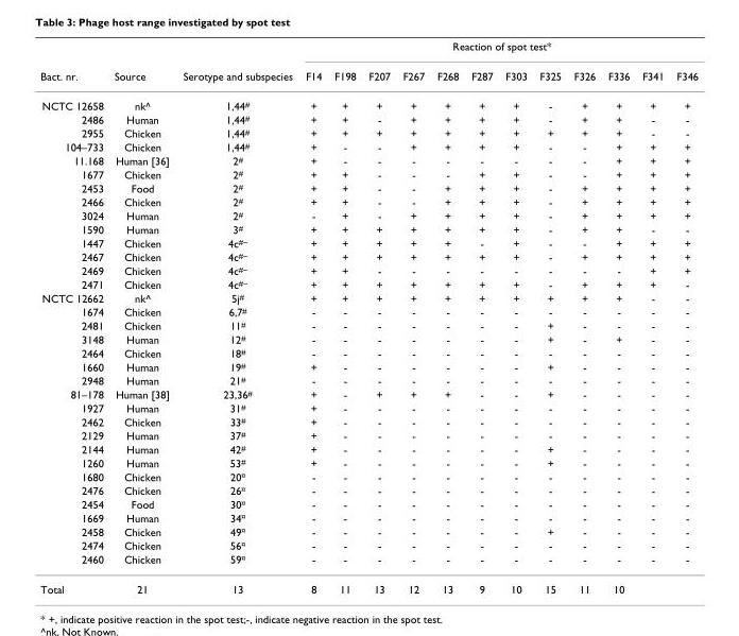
<table><thead><tr><td rowspan="2">Bact. nr.</td><td rowspan="2">Source</td><td rowspan="2">Serotype and subspecies</td><td colspan="12">Reaction of spot test*</td></tr><tr><td>F14</td><td>F198</td><td>F207</td><td>F267</td><td>F268</td><td>F287</td><td>F303</td><td>F325</td><td>F326</td><td>F336</td><td>F341</td><td>F346</td></tr></thead><tbody><tr><td>NCTC 12658</td><td>nk^</td><td>1,44<sup>#</sup></td><td>+</td><td>+</td><td>+</td><td>+</td><td>+</td><td>+</td><td>+</td><td>-</td><td>+</td><td>+</td><td>+</td><td>+</td></tr><tr><td>2486</td><td>Human</td><td>1,44<sup>#</sup></td><td>+</td><td>+</td><td>-</td><td>+</td><td>+</td><td>+</td><td>+</td><td>-</td><td>+</td><td>+</td><td>-</td><td>-</td></tr><tr><td>2955</td><td>Chicken</td><td>1,44<sup>#</sup></td><td>+</td><td>+</td><td>+</td><td>+</td><td>+</td><td>+</td><td>+</td><td>+</td><td>+</td><td>+</td><td>-</td><td>-</td></tr><tr><td>104–733</td><td>Chicken</td><td>1,44<sup>#</sup></td><td>+</td><td>-</td><td>-</td><td>+</td><td>+</td><td>+</td><td>+</td><td>-</td><td>-</td><td>+</td><td>+</td><td>+</td></tr><tr><td>11.168</td><td>Human [36]</td><td>2<sup>#</sup></td><td>+</td><td>-</td><td>-</td><td>-</td><td>-</td><td>-</td><td>-</td><td>-</td><td>-</td><td>+</td><td>+</td><td>+</td></tr><tr><td>1677</td><td>Chicken</td><td>2<sup>#</sup></td><td>+</td><td>+</td><td>-</td><td>-</td><td>-</td><td>+</td><td>+</td><td>-</td><td>-</td><td>+</td><td>+</td><td>+</td></tr><tr><td>2453</td><td>Food</td><td>2<sup>#</sup></td><td>+</td><td>+</td><td>-</td><td>-</td><td>+</td><td>+</td><td>+</td><td>-</td><td>+</td><td>+</td><td>+</td><td>+</td></tr><tr><td>2466</td><td>Chicken</td><td>2<sup>#</sup></td><td>+</td><td>+</td><td>-</td><td>-</td><td>+</td><td>+</td><td>+</td><td>-</td><td>+</td><td>+</td><td>+</td><td>+</td></tr><tr><td>3024</td><td>Human</td><td>2<sup>#</sup></td><td>-</td><td>+</td><td>-</td><td>+</td><td>+</td><td>+</td><td>+</td><td>-</td><td>+</td><td>+</td><td>+</td><td>+</td></tr><tr><td>1590</td><td>Human</td><td>3<sup>#</sup></td><td>+</td><td>+</td><td>+</td><td>+</td><td>+</td><td>+</td><td>+</td><td>-</td><td>+</td><td>+</td><td>-</td><td>-</td></tr><tr><td>1447</td><td>Chicken</td><td>4c<sup>#~</sup></td><td>+</td><td>+</td><td>+</td><td>+</td><td>+</td><td>-</td><td>+</td><td>-</td><td>-</td><td>+</td><td>+</td><td>+</td></tr><tr><td>2467</td><td>Chicken</td><td>4c<sup>#~</sup></td><td>+</td><td>+</td><td>+</td><td>+</td><td>+</td><td>+</td><td>+</td><td>-</td><td>+</td><td>+</td><td>+</td><td>+</td></tr><tr><td>2469</td><td>Chicken</td><td>4c<sup>#~</sup></td><td>+</td><td>+</td><td>-</td><td>-</td><td>-</td><td>-</td><td>-</td><td>-</td><td>-</td><td>-</td><td>+</td><td>+</td></tr><tr><td>2471</td><td>Chicken</td><td>4c<sup>#~</sup></td><td>+</td><td>+</td><td>+</td><td>+</td><td>+</td><td>+</td><td>+</td><td>-</td><td>+</td><td>+</td><td>+</td><td>-</td></tr><tr><td>NCTC 12662</td><td>nk^</td><td>5j<sup>#</sup></td><td>+</td><td>+</td><td>+</td><td>+</td><td>+</td><td>+</td><td>+</td><td>+</td><td>+</td><td>+</td><td>-</td><td>-</td></tr><tr><td>1674</td><td>Chicken</td><td>6,7<sup>#</sup></td><td>-</td><td>-</td><td>-</td><td>-</td><td>-</td><td>-</td><td>-</td><td>-</td><td>-</td><td>-</td><td>-</td><td>-</td></tr><tr><td>2481</td><td>Chicken</td><td>11<sup>#</sup></td><td>-</td><td>-</td><td>-</td><td>-</td><td>-</td><td>-</td><td>-</td><td>+</td><td>-</td><td>-</td><td>-</td><td>-</td></tr><tr><td>3148</td><td>Human</td><td>12<sup>#</sup></td><td>-</td><td>-</td><td>-</td><td>-</td><td>-</td><td>-</td><td>-</td><td>+</td><td>-</td><td>+</td><td>-</td><td>-</td></tr><tr><td>2464</td><td>Chicken</td><td>18<sup>#</sup></td><td>-</td><td>-</td><td>-</td><td>-</td><td>-</td><td>-</td><td>-</td><td>-</td><td>-</td><td>-</td><td>-</td><td>-</td></tr><tr><td>1660</td><td>Human</td><td>19<sup>#</sup></td><td>+</td><td>-</td><td>-</td><td>-</td><td>-</td><td>-</td><td>-</td><td>+</td><td>-</td><td>-</td><td>-</td><td>-</td></tr><tr><td>2948</td><td>Human</td><td>21<sup>#</sup></td><td>-</td><td>-</td><td>-</td><td>-</td><td>-</td><td>-</td><td>-</td><td>-</td><td>-</td><td>-</td><td>-</td><td>-</td></tr><tr><td>81–178</td><td>Human [38]</td><td>23,36<sup>#</sup></td><td>+</td><td>-</td><td>+</td><td>+</td><td>+</td><td>-</td><td>-</td><td>+</td><td>-</td><td>-</td><td>-</td><td>-</td></tr><tr><td>1927</td><td>Human</td><td>31<sup>#</sup></td><td>+</td><td>-</td><td>-</td><td>-</td><td>-</td><td>-</td><td>-</td><td>-</td><td>-</td><td>-</td><td>-</td><td>-</td></tr><tr><td>2462</td><td>Chicken</td><td>33<sup>#</sup></td><td>+</td><td>-</td><td>-</td><td>-</td><td>-</td><td>-</td><td>-</td><td>-</td><td>-</td><td>-</td><td>-</td><td>-</td></tr><tr><td>2129</td><td>Human</td><td>37<sup>#</sup></td><td>+</td><td>-</td><td>-</td><td>-</td><td>-</td><td>-</td><td>-</td><td>-</td><td>-</td><td>-</td><td>-</td><td>-</td></tr><tr><td>2144</td><td>Human</td><td>42<sup>#</sup></td><td>+</td><td>-</td><td>-</td><td>-</td><td>-</td><td>-</td><td>-</td><td>+</td><td>-</td><td>-</td><td>-</td><td>-</td></tr><tr><td>1260</td><td>Human</td><td>53<sup>#</sup></td><td>+</td><td>-</td><td>-</td><td>-</td><td>-</td><td>-</td><td>-</td><td>+</td><td>-</td><td>-</td><td>-</td><td>-</td></tr><tr><td>1680</td><td>Chicken</td><td>20<sup>¤</sup></td><td>-</td><td>-</td><td>-</td><td>-</td><td>-</td><td>-</td><td>-</td><td>-</td><td>-</td><td>-</td><td>-</td><td>-</td></tr><tr><td>2476</td><td>Chicken</td><td>26<sup>¤</sup></td><td>-</td><td>-</td><td>-</td><td>-</td><td>-</td><td>-</td><td>-</td><td>-</td><td>-</td><td>-</td><td>-</td><td>-</td></tr><tr><td>2454</td><td>Food</td><td>30<sup>¤</sup></td><td>-</td><td>-</td><td>-</td><td>-</td><td>-</td><td>-</td><td>-</td><td>-</td><td>-</td><td>-</td><td>-</td><td>-</td></tr><tr><td>1669</td><td>Human</td><td>34<sup>¤</sup></td><td>-</td><td>-</td><td>-</td><td>-</td><td>-</td><td>-</td><td>-</td><td>-</td><td>-</td><td>-</td><td>-</td><td>-</td></tr><tr><td>2458</td><td>Chicken</td><td>49<sup>¤</sup></td><td>-</td><td>-</td><td>-</td><td>-</td><td>-</td><td>-</td><td>-</td><td>+</td><td>-</td><td>-</td><td>-</td><td>-</td></tr><tr><td>2474</td><td>Chicken</td><td>56<sup>¤</sup></td><td>-</td><td>-</td><td>-</td><td>-</td><td>-</td><td>-</td><td>-</td><td>-</td><td>-</td><td>-</td><td>-</td><td>-</td></tr><tr><td>2460</td><td>Chicken</td><td>59<sup>¤</sup></td><td>-</td><td>-</td><td>-</td><td>-</td><td>-</td><td>-</td><td>-</td><td>-</td><td>-</td><td>-</td><td>-</td><td>-</td></tr><tr><td>Total</td><td>21</td><td>13</td><td>8</td><td>11</td><td>13</td><td>12</td><td>13</td><td>9</td><td>10</td><td>15</td><td>11</td><td>10</td><td></td><td></td></tr></tbody></table>